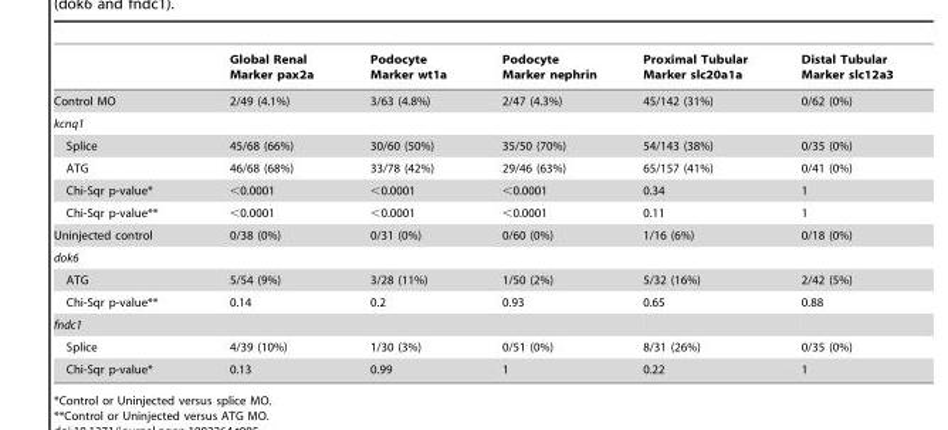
<table><thead><tr><td></td><td>Global Renal Marker pax2a</td><td>Podocyte Marker wt1a</td><td>Podocyte Marker nephrin</td><td>Proximal Tubular Marker slc20a1a</td><td>Distal Tubular Marker slc12a3</td></tr></thead><tbody><tr><td>Control MO</td><td>2/49 (4.1%)</td><td>3/63 (4.8%)</td><td>2/47 (4.3%)</td><td>45/142 (31%)</td><td>0/62 (0%)</td></tr><tr><td colspan="6">kcnq1</td></tr><tr><td>Splice</td><td>45/68 (66%)</td><td>30/60 (50%)</td><td>35/50 (70%)</td><td>54/143 (38%)</td><td>0/35 (0%)</td></tr><tr><td>ATG</td><td>46/68 (68%)</td><td>33/78 (42%)</td><td>29/46 (63%)</td><td>65/157 (41%)</td><td>0/41 (0%)</td></tr><tr><td>Chi-Sqr p-value*</td><td>&lt;0.0001</td><td>&lt;0.0001</td><td>&lt;0.0001</td><td>0.34</td><td>1</td></tr><tr><td>Chi-Sqr p-value**</td><td>&lt;0.0001</td><td>&lt;0.0001</td><td>&lt;0.0001</td><td>0.11</td><td>1</td></tr><tr><td>Uninjected control</td><td>0/38 (0%)</td><td>0/31 (0%)</td><td>0/60 (0%)</td><td>1/16 (6%)</td><td>0/18 (0%)</td></tr><tr><td colspan="6">dok6</td></tr><tr><td>ATG</td><td>5/54 (9%)</td><td>3/28 (11%)</td><td>1/50 (2%)</td><td>5/32 (16%)</td><td>2/42 (5%)</td></tr><tr><td>Chi-Sqr p-value**</td><td>0.14</td><td>0.2</td><td>0.93</td><td>0.65</td><td>0.88</td></tr><tr><td colspan="6">fndc1</td></tr><tr><td>Splice</td><td>4/39 (10%)</td><td>1/30 (3%)</td><td>0/51 (0%)</td><td>8/31 (26%)</td><td>0/35 (0%)</td></tr><tr><td>Chi-Sqr p-value*</td><td>0.13</td><td>0.99</td><td>1</td><td>0.22</td><td>1</td></tr></tbody></table>